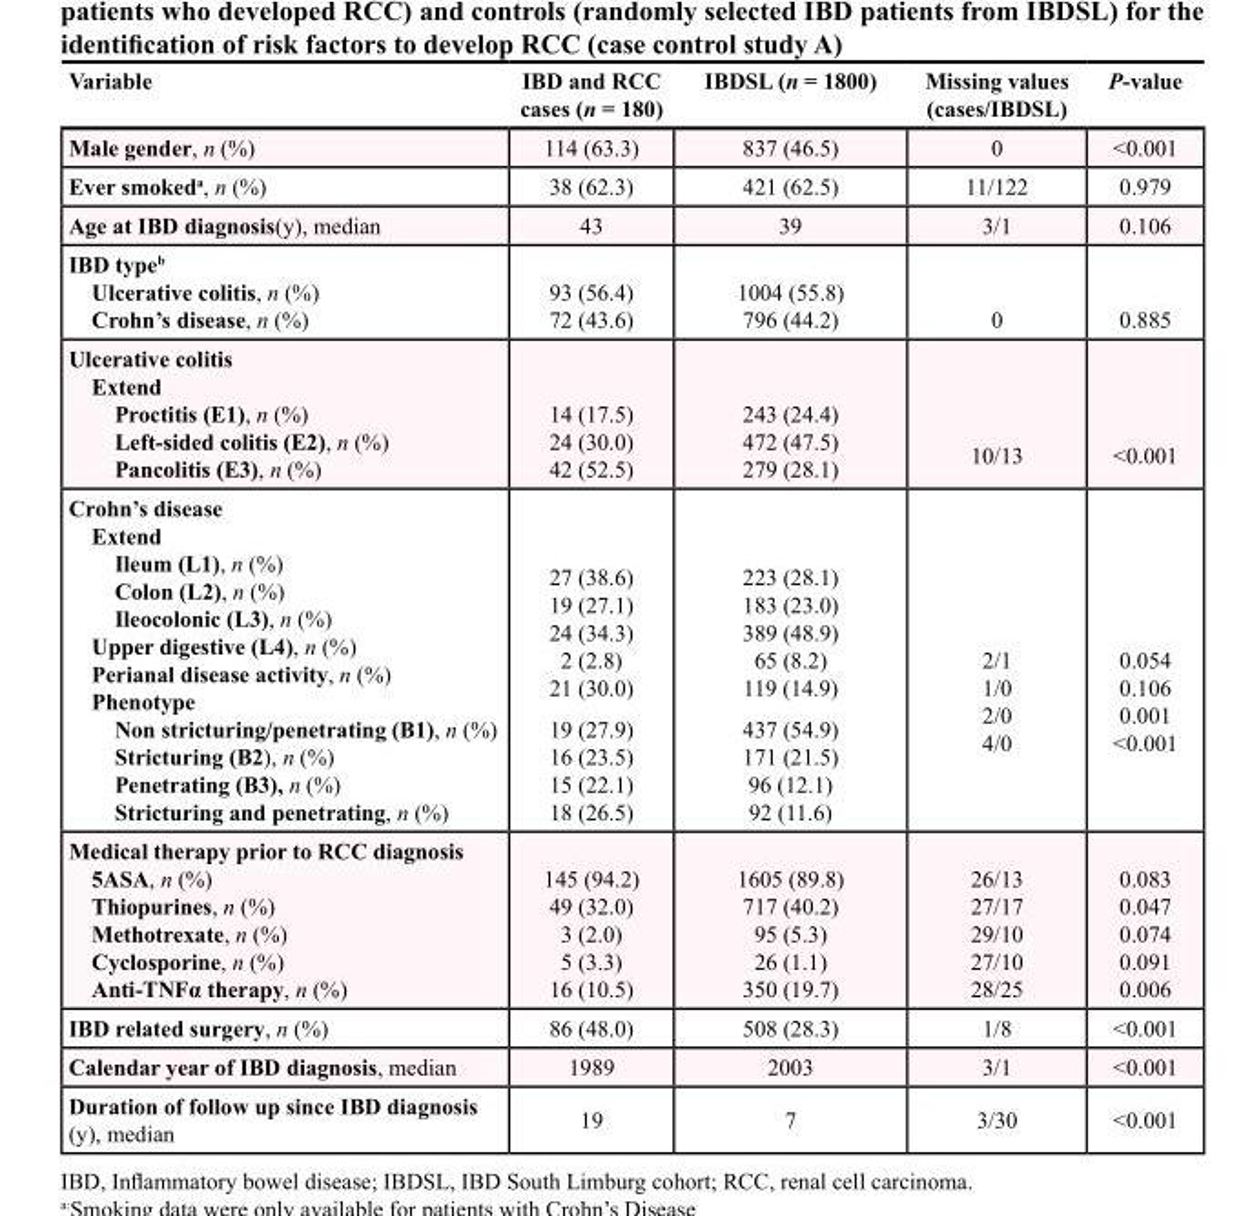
<table><thead><tr><td>Variable</td><td>IBD and RCC cases (n = 180)</td><td>IBDSL (n = 1800)</td><td>Missing values (cases/IBDSL)</td><td>P-value</td></tr></thead><tbody><tr><td>Male gender, n (%)</td><td>114 (63.3)</td><td>837 (46.5)</td><td>0</td><td>&lt;0.001</td></tr><tr><td>Ever smoked<sup>a</sup>, n (%)</td><td>38 (62.3)</td><td>421 (62.5)</td><td>11/122</td><td>0.979</td></tr><tr><td>Age at IBD diagnosis(y), median</td><td>43</td><td>39</td><td>3/1</td><td>0.106</td></tr><tr><td>IBD type<sup>b</sup> Ulcerative colitis, n (%) Crohn’s disease, n (%)</td><td>93 (56.4) 72 (43.6)</td><td>1004 (55.8) 796 (44.2)</td><td>0</td><td>0.885</td></tr><tr><td>Ulcerative colitis Extend Proctitis (E1), n (%) Left-sided colitis (E2), n (%) Pancolitis (E3), n (%)</td><td>14 (17.5) 24 (30.0) 42 (52.5)</td><td>243 (24.4) 472 (47.5) 279 (28.1)</td><td>10/13</td><td>&lt;0.001</td></tr><tr><td>Crohn’s disease Extend Ileum (L1), n (%) Colon (L2), n (%) Ileocolonic (L3), n (%) Upper digestive (L4), n (%) Perianal disease activity, n (%) Phenotype Non stricturing/penetrating (B1), n (%) Stricturing (B2), n (%) Penetrating (B3), n (%) Stricturing and penetrating, n (%)</td><td>27 (38.6) 19 (27.1) 24 (34.3) 2 (2.8) 21 (30.0) 19 (27.9) 16 (23.5) 15 (22.1) 18 (26.5)</td><td>223 (28.1) 183 (23.0) 389 (48.9) 65 (8.2) 119 (14.9) 437 (54.9) 171 (21.5) 96 (12.1) 92 (11.6)</td><td>2/1 1/0 2/0 4/0</td><td>0.054 0.106 0.001 &lt;0.001</td></tr><tr><td>Medical therapy prior to RCC diagnosis 5ASA, n (%) Thiopurines, n (%) Methotrexate, n (%) Cyclosporine, n (%) Anti-TNFα therapy, n (%)</td><td>145 (94.2) 49 (32.0) 3 (2.0) 5 (3.3) 16 (10.5)</td><td>1605 (89.8) 717 (40.2) 95 (5.3) 26 (1.1) 350 (19.7)</td><td>26/13 27/17 29/10 27/10 28/25</td><td>0.083 0.047 0.074 0.091 0.006</td></tr><tr><td>IBD related surgery, n (%)</td><td>86 (48.0)</td><td>508 (28.3)</td><td>1/8</td><td>&lt;0.001</td></tr><tr><td>Calendar year of IBD diagnosis, median</td><td>1989</td><td>2003</td><td>3/1</td><td>&lt;0.001</td></tr><tr><td>Duration of follow up since IBD diagnosis (y), median</td><td>19</td><td>7</td><td>3/30</td><td>&lt;0.001</td></tr></tbody></table>